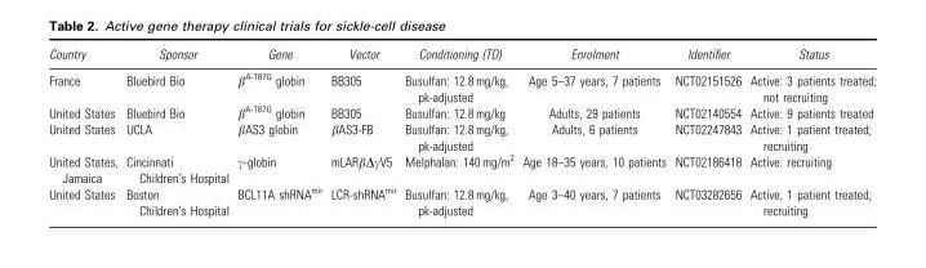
<table><thead><tr><td>Country</td><td>Sponsor</td><td>Gene</td><td>Vector</td><td>Conditioning (TD)</td><td>Enrolment</td><td>Identifier</td><td>Status</td></tr></thead><tbody><tr><td>France</td><td>Bluebird Bio</td><td>β<sup>A-T87Q</sup> globin</td><td>BB305</td><td>Busulfan: 12.8 mg/kg, pk-adjusted</td><td>Age 5–37 years, 7 patients</td><td>NCT02151526</td><td>Active: 3 patients treated; not recruiting</td></tr><tr><td>United States</td><td>Bluebird Bio</td><td>β<sup>A-T87Q</sup> globin</td><td>BB305</td><td>Busulfan: 12.8 mg/kg</td><td>Adults, 29 patients</td><td>NCT02140554</td><td>Active: 9 patients treated</td></tr><tr><td>United States</td><td>UCLA</td><td>βAS3 globin</td><td>βAS3-FB</td><td>Busulfan: 12.8 mg/kg, pk-adjusted</td><td>Adults, 6 patients</td><td>NCT02247843</td><td>Active: 1 patient treated; recruiting</td></tr><tr><td>United States, Jamaica</td><td>Cincinnati Children’s Hospital</td><td>γ-globin</td><td>mLARβΔγV5</td><td>Melphalan: 140 mg/m<sup>2</sup></td><td>Age 18–35 years, 10 patients</td><td>NCT02186418</td><td>Active: recruiting</td></tr><tr><td>United States</td><td>Boston Children’s Hospital</td><td>BCL11A shRNA<sup>mir</sup></td><td>LCR-shRNA<sup>mir</sup></td><td>Busulfan: 12.8 mg/kg, pk-adjusted</td><td>Age 3–40 years, 7 patients</td><td>NCT03282656</td><td>Active, 1 patient treated; recruiting</td></tr></tbody></table>